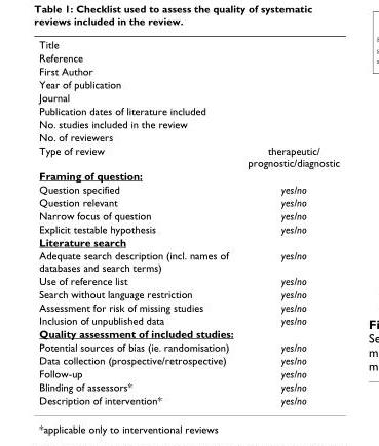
<table><tbody><tr><td colspan="2">Title</td></tr><tr><td colspan="2">Reference</td></tr><tr><td colspan="2">First Author</td></tr><tr><td colspan="2">Year of publication</td></tr><tr><td colspan="2">Journal</td></tr><tr><td colspan="2">Publication dates of literature included</td></tr><tr><td colspan="2">No. studies included in the review</td></tr><tr><td colspan="2">No. of reviewers</td></tr><tr><td>Type of review</td><td>therapeutic/ prognostic/diagnostic</td></tr><tr><td colspan="2">Framing of question:</td></tr><tr><td>Question specified</td><td>yes/no</td></tr><tr><td>Question relevant</td><td>yes/no</td></tr><tr><td>Narrow focus of question</td><td>yes/no</td></tr><tr><td>Explicit testable hypothesis</td><td>yes/no</td></tr><tr><td colspan="2">Literature search</td></tr><tr><td>Adequate search description (incl. names of databases and search terms)</td><td>yes/no</td></tr><tr><td>Use of reference list</td><td>yes/no</td></tr><tr><td>Search without language restriction</td><td>yes/no</td></tr><tr><td>Assessment for risk of missing studies</td><td>yes/no</td></tr><tr><td>Inclusion of unpublished data</td><td>yes/no</td></tr><tr><td colspan="2">Quality assessment of included studies:</td></tr><tr><td>Potential sources of bias (ie. randomisation)</td><td>yes/no</td></tr><tr><td>Data collection (prospective/retrospective)</td><td>yes/no</td></tr><tr><td>Follow-up</td><td>yes/no</td></tr><tr><td>Blinding of assessors*</td><td>yes/no</td></tr><tr><td>Description of intervention*</td><td>yes/no</td></tr></tbody></table>